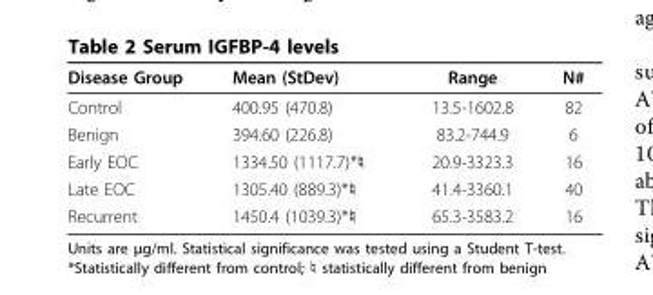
<table><thead><tr><td>Disease Group</td><td>Mean (StDev)</td><td>Range</td><td>N#</td></tr></thead><tbody><tr><td>Control</td><td>400.95 (470.8)</td><td>13.5-1602.8</td><td>82</td></tr><tr><td>Benign</td><td>394.60 (226.8)</td><td>83.2-744.9</td><td>6</td></tr><tr><td>Early EOC</td><td>1334.50 (1117.7)*♮</td><td>20.9-3323.3</td><td>16</td></tr><tr><td>Late EOC</td><td>1305.40 (889.3)*♮</td><td>41.4-3360.1</td><td>40</td></tr><tr><td>Recurrent</td><td>1450.4 (1039.3)*♮</td><td>65.3-3583.2</td><td>16</td></tr></tbody></table>